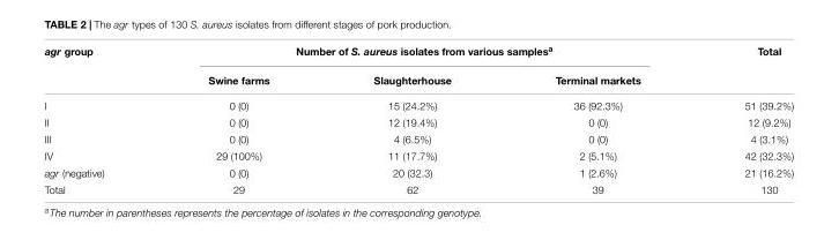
<table><thead><tr><td rowspan="2">agr group</td><td colspan="3">Number of S. aureus isolates from various samples<sup>a</sup></td><td rowspan="2">Total</td></tr><tr><td>Swine farms</td><td>Slaughterhouse</td><td>Terminal markets</td></tr></thead><tbody><tr><td>I</td><td>0 (0)</td><td>15 (24.2%)</td><td>36 (92.3%)</td><td>51 (39.2%)</td></tr><tr><td>II</td><td>0 (0)</td><td>12 (19.4%)</td><td>0 (0)</td><td>12 (9.2%)</td></tr><tr><td>III</td><td>0 (0)</td><td>4 (6.5%)</td><td>0 (0)</td><td>4 (3.1%)</td></tr><tr><td>IV</td><td>29 (100%)</td><td>11 (17.7%)</td><td>2 (5.1%)</td><td>42 (32.3%)</td></tr><tr><td>agr (negative)</td><td>0 (0)</td><td>20 (32.3)</td><td>1 (2.6%)</td><td>21 (16.2%)</td></tr><tr><td>Total</td><td>29</td><td>62</td><td>39</td><td>130</td></tr></tbody></table>